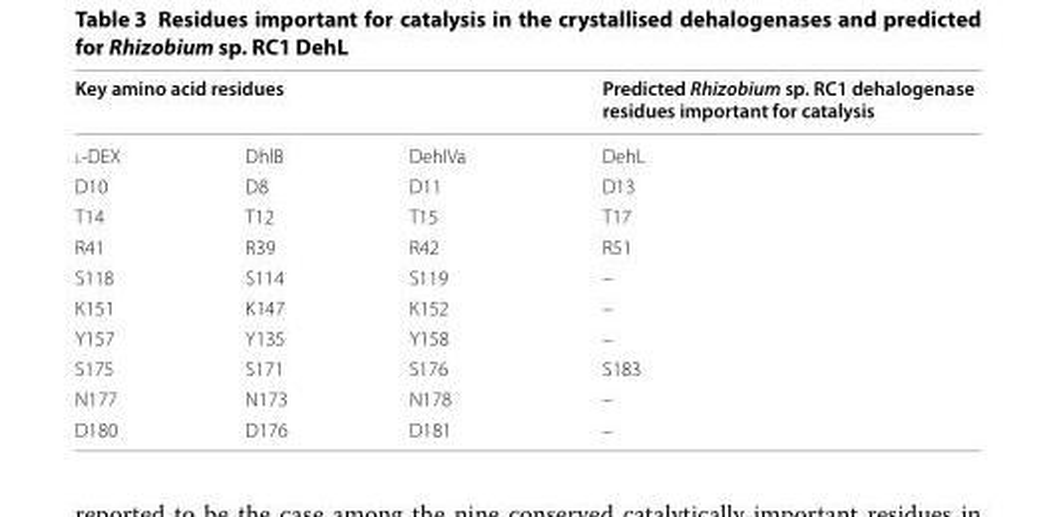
<table><thead><tr><td colspan="3">Key amino acid residues</td><td rowspan="2">Predicted Rhizobium sp. RC1 dehalogenase residues important for catalysis DehL</td></tr><tr><td>l-DEX</td><td>DhlB</td><td>DehIVa</td></tr></thead><tbody><tr><td>D10</td><td>D8</td><td>D11</td><td>D13</td></tr><tr><td>T14</td><td>T12</td><td>T15</td><td>T17</td></tr><tr><td>R41</td><td>R39</td><td>R42</td><td>R51</td></tr><tr><td>S118</td><td>S114</td><td>S119</td><td>–</td></tr><tr><td>K151</td><td>K147</td><td>K152</td><td>–</td></tr><tr><td>Y157</td><td>Y135</td><td>Y158</td><td>–</td></tr><tr><td>S175</td><td>S171</td><td>S176</td><td>S183</td></tr><tr><td>N177</td><td>N173</td><td>N178</td><td>–</td></tr><tr><td>D180</td><td>D176</td><td>D181</td><td>–</td></tr></tbody></table>